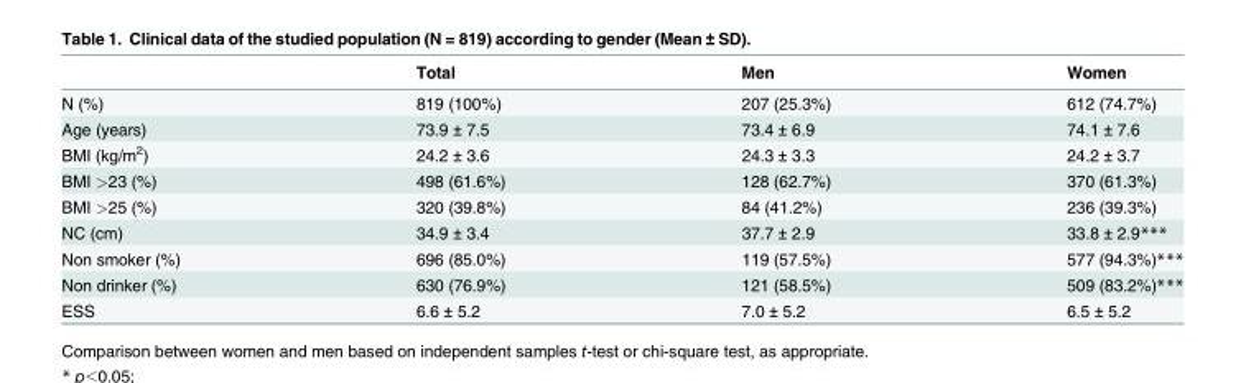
<table><thead><tr><td></td><td>Total</td><td>Men</td><td>Women</td></tr></thead><tbody><tr><td>N (%)</td><td>819 (100%)</td><td>207 (25.3%)</td><td>612 (74.7%)</td></tr><tr><td>Age (years)</td><td>73.9 ± 7.5</td><td>73.4 ± 6.9</td><td>74.1 ± 7.6</td></tr><tr><td>BMI (kg/m<sup>2</sup>)</td><td>24.2 ± 3.6</td><td>24.3 ± 3.3</td><td>24.2 ± 3.7</td></tr><tr><td>BMI &gt;23 (%)</td><td>498 (61.6%)</td><td>128 (62.7%)</td><td>370 (61.3%)</td></tr><tr><td>BMI &gt;25 (%)</td><td>320 (39.8%)</td><td>84 (41.2%)</td><td>236 (39.3%)</td></tr><tr><td>NC (cm)</td><td>34.9 ± 3.4</td><td>37.7 ± 2.9</td><td>33.8 ± 2.9***</td></tr><tr><td>Non smoker (%)</td><td>696 (85.0%)</td><td>119 (57.5%)</td><td>577 (94.3%)***</td></tr><tr><td>Non drinker (%)</td><td>630 (76.9%)</td><td>121 (58.5%)</td><td>509 (83.2%)***</td></tr><tr><td>ESS</td><td>6.6 ± 5.2</td><td>7.0 ± 5.2</td><td>6.5 ± 5.2</td></tr></tbody></table>